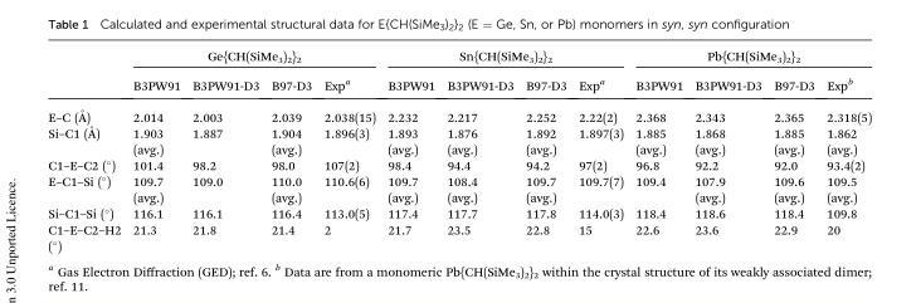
<table><thead><tr><td rowspan="2"></td><td colspan="4">Ge{CH(SiMe<sub>3</sub>)<sub>2</sub>}<sub>2</sub></td><td colspan="4">Sn{CH(SiMe<sub>3</sub>)<sub>2</sub>}<sub>2</sub></td><td colspan="4">Pb{CH(SiMe<sub>3</sub>)<sub>2</sub>}<sub>2</sub></td></tr><tr><td>B3PW91</td><td>B3PW91-D3</td><td>B97-D3</td><td>Exp<sup>a</sup></td><td>B3PW91</td><td>B3PW91-D3</td><td>B97-D3</td><td>Exp<sup>a</sup></td><td>B3PW91</td><td>B3PW91-D3</td><td>B97-D3</td><td>Exp<sup>b</sup></td></tr></thead><tbody><tr><td>E–C (˚A)</td><td>2.014</td><td>2.003</td><td>2.039</td><td>2.038(15)</td><td>2.232</td><td>2.217</td><td>2.252</td><td>2.22(2)</td><td>2.368</td><td>2.343</td><td>2.365</td><td>2.318(5)</td></tr><tr><td>Si–C1 (˚A)</td><td>1.903 (avg.)</td><td>1.887</td><td>1.904 (avg.)</td><td>1.896(3)</td><td>1.893 (avg.)</td><td>1.876 (avg.)</td><td>1.892 (avg.)</td><td>1.897(3)</td><td>1.885 (avg.)</td><td>1.868 (avg.)</td><td>1.885 (avg.)</td><td>1.862 (avg.)</td></tr><tr><td>C1–E–C2 (°)</td><td>101.4</td><td>98.2</td><td>98.0</td><td>107(2)</td><td>98.4</td><td>94.4</td><td>94.2</td><td>97(2)</td><td>96.8</td><td>92.2</td><td>92.0</td><td>93.4(2)</td></tr><tr><td>E–C1–Si (°)</td><td>109.7 (avg.)</td><td>109.0</td><td>110.0 (avg.)</td><td>110.6(6)</td><td>109.7 (avg.)</td><td>108.4 (avg.)</td><td>109.7 (avg.)</td><td>109.7(7)</td><td>109.4</td><td>107.9 (avg.)</td><td>109.6 (avg.)</td><td>109.5 (avg.)</td></tr><tr><td>Si–C1–Si (°)</td><td>116.1</td><td>116.1</td><td>116.4</td><td>113.0(5)</td><td>117.4</td><td>117.7</td><td>117.8</td><td>114.0(3)</td><td>118.4</td><td>118.6</td><td>118.4</td><td>109.8</td></tr><tr><td>C1–E–C2–H2 (°)</td><td>21.3</td><td>21.8</td><td>21.4</td><td>2</td><td>21.7</td><td>23.5</td><td>22.8</td><td>15</td><td>22.6</td><td>23.6</td><td>22.9</td><td>20</td></tr></tbody></table>